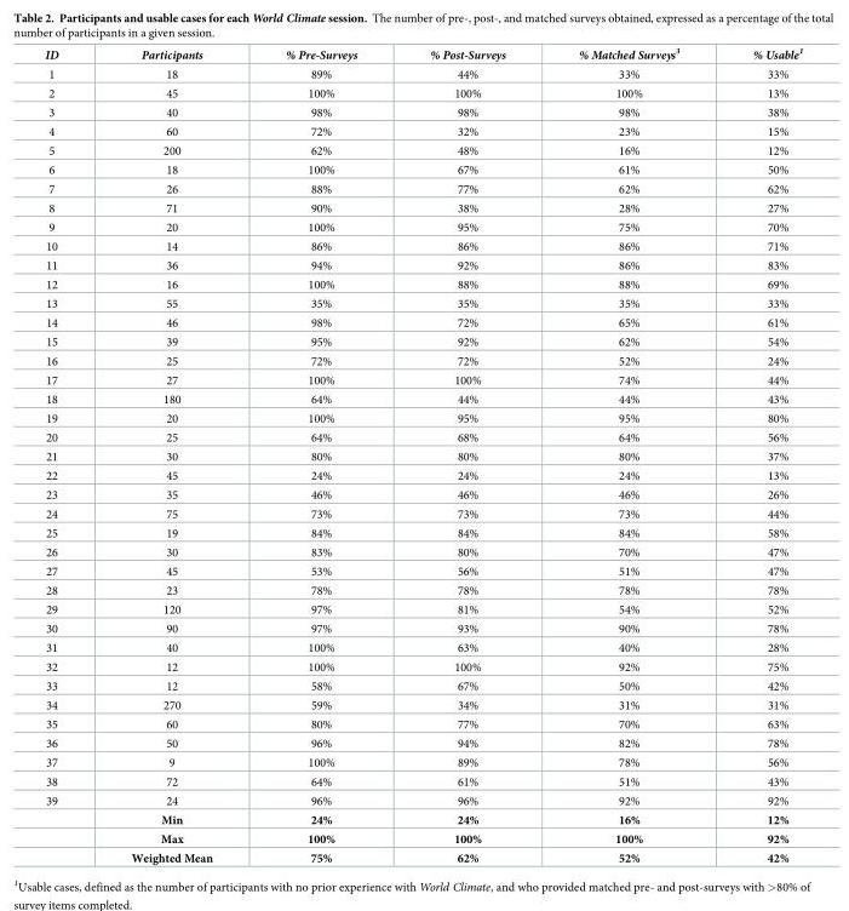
<table><thead><tr><td>ID</td><td>Participants</td><td>% Pre-Surveys</td><td>% Post-Surveys</td><td>% Matched Surveys<sup>3</sup></td><td>% Usable<sup>1</sup></td></tr></thead><tbody><tr><td>1</td><td>18</td><td>89%</td><td>44%</td><td>33%</td><td>33%</td></tr><tr><td>2</td><td>45</td><td>100%</td><td>100%</td><td>100%</td><td>13%</td></tr><tr><td>3</td><td>40</td><td>98%</td><td>98%</td><td>98%</td><td>38%</td></tr><tr><td>4</td><td>60</td><td>72%</td><td>32%</td><td>23%</td><td>15%</td></tr><tr><td>5</td><td>200</td><td>62%</td><td>48%</td><td>16%</td><td>12%</td></tr><tr><td>6</td><td>18</td><td>100%</td><td>67%</td><td>61%</td><td>50%</td></tr><tr><td>7</td><td>26</td><td>88%</td><td>77%</td><td>62%</td><td>62%</td></tr><tr><td>8</td><td>71</td><td>90%</td><td>38%</td><td>28%</td><td>27%</td></tr><tr><td>9</td><td>20</td><td>100%</td><td>95%</td><td>75%</td><td>70%</td></tr><tr><td>10</td><td>14</td><td>86%</td><td>86%</td><td>86%</td><td>71%</td></tr><tr><td>11</td><td>36</td><td>94%</td><td>92%</td><td>86%</td><td>83%</td></tr><tr><td>12</td><td>16</td><td>100%</td><td>88%</td><td>88%</td><td>69%</td></tr><tr><td>13</td><td>55</td><td>35%</td><td>35%</td><td>35%</td><td>33%</td></tr><tr><td>14</td><td>46</td><td>98%</td><td>72%</td><td>65%</td><td>61%</td></tr><tr><td>15</td><td>39</td><td>95%</td><td>92%</td><td>62%</td><td>54%</td></tr><tr><td>16</td><td>25</td><td>72%</td><td>72%</td><td>52%</td><td>24%</td></tr><tr><td>17</td><td>27</td><td>100%</td><td>100%</td><td>74%</td><td>44%</td></tr><tr><td>18</td><td>180</td><td>64%</td><td>44%</td><td>44%</td><td>43%</td></tr><tr><td>19</td><td>20</td><td>100%</td><td>95%</td><td>95%</td><td>80%</td></tr><tr><td>20</td><td>25</td><td>64%</td><td>68%</td><td>64%</td><td>56%</td></tr><tr><td>21</td><td>30</td><td>80%</td><td>80%</td><td>80%</td><td>37%</td></tr><tr><td>22</td><td>45</td><td>24%</td><td>24%</td><td>24%</td><td>13%</td></tr><tr><td>23</td><td>35</td><td>46%</td><td>46%</td><td>46%</td><td>26%</td></tr><tr><td>24</td><td>75</td><td>73%</td><td>73%</td><td>73%</td><td>44%</td></tr><tr><td>25</td><td>19</td><td>84%</td><td>84%</td><td>84%</td><td>58%</td></tr><tr><td>26</td><td>30</td><td>83%</td><td>80%</td><td>70%</td><td>47%</td></tr><tr><td>27</td><td>45</td><td>53%</td><td>56%</td><td>51%</td><td>47%</td></tr><tr><td>28</td><td>23</td><td>78%</td><td>78%</td><td>78%</td><td>78%</td></tr><tr><td>29</td><td>120</td><td>97%</td><td>81%</td><td>54%</td><td>52%</td></tr><tr><td>30</td><td>90</td><td>97%</td><td>93%</td><td>90%</td><td>78%</td></tr><tr><td>31</td><td>40</td><td>100%</td><td>63%</td><td>40%</td><td>28%</td></tr><tr><td>32</td><td>12</td><td>100%</td><td>100%</td><td>92%</td><td>75%</td></tr><tr><td>33</td><td>12</td><td>58%</td><td>67%</td><td>50%</td><td>42%</td></tr><tr><td>34</td><td>270</td><td>59%</td><td>34%</td><td>31%</td><td>31%</td></tr><tr><td>35</td><td>60</td><td>80%</td><td>77%</td><td>70%</td><td>63%</td></tr><tr><td>36</td><td>50</td><td>96%</td><td>94%</td><td>82%</td><td>78%</td></tr><tr><td>37</td><td>9</td><td>100%</td><td>89%</td><td>78%</td><td>56%</td></tr><tr><td>38</td><td>72</td><td>64%</td><td>61%</td><td>51%</td><td>43%</td></tr><tr><td rowspan="4">39</td><td>24</td><td>96%</td><td>96%</td><td>92%</td><td>92%</td></tr><tr><td>Min</td><td>24%</td><td>24%</td><td>16%</td><td>12%</td></tr><tr><td>Max</td><td>100%</td><td>100%</td><td>100%</td><td>92%</td></tr><tr><td>Weighted Mean</td><td>75%</td><td>62%</td><td>52%</td><td>42%</td></tr></tbody></table>